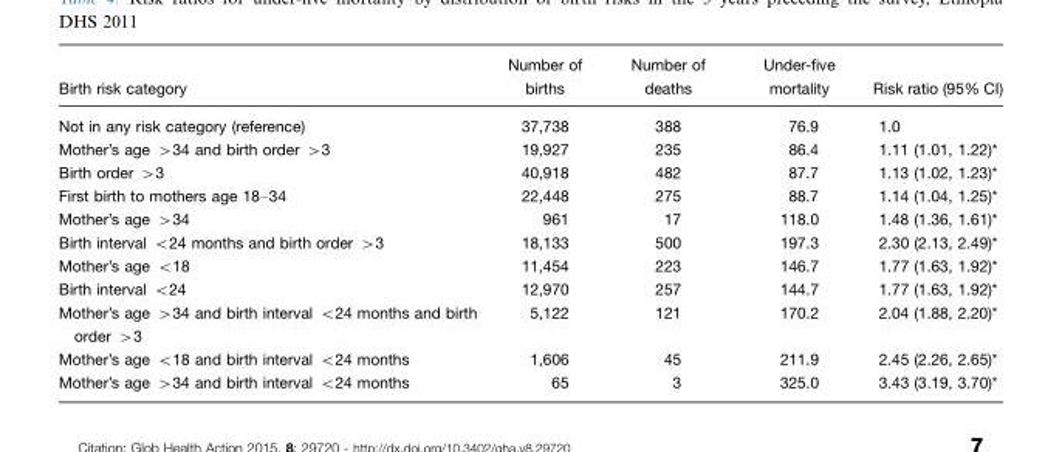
<table><thead><tr><td>Birth risk category</td><td>Number of births</td><td>Number of deaths</td><td>Under-five mortality</td><td>Risk ratio (95% CI)</td></tr></thead><tbody><tr><td>Not in any risk category (reference)</td><td>37,738</td><td>388</td><td>76.9</td><td>1.0</td></tr><tr><td>Mother’s age &gt;34 and birth order &gt;3</td><td>19,927</td><td>235</td><td>86.4</td><td>1.11 (1.01, 1.22)*</td></tr><tr><td>Birth order &gt;3</td><td>40,918</td><td>482</td><td>87.7</td><td>1.13 (1.02, 1.23)*</td></tr><tr><td>First birth to mothers age 18–34</td><td>22,448</td><td>275</td><td>88.7</td><td>1.14 (1.04, 1.25)*</td></tr><tr><td>Mother’s age &gt;34</td><td>961</td><td>17</td><td>118.0</td><td>1.48 (1.36, 1.61)*</td></tr><tr><td>Birth interval &lt;24 months and birth order &gt;3</td><td>18,133</td><td>500</td><td>197.3</td><td>2.30 (2.13, 2.49)*</td></tr><tr><td>Mother’s age &lt;18</td><td>11,454</td><td>223</td><td>146.7</td><td>1.77 (1.63, 1.92)*</td></tr><tr><td>Birth interval &lt;24</td><td>12,970</td><td>257</td><td>144.7</td><td>1.77 (1.63, 1.92)*</td></tr><tr><td>Mother’s age &gt;34 and birth interval &lt;24 months and birth order &gt;3</td><td>5,122</td><td>121</td><td>170.2</td><td>2.04 (1.88, 2.20)*</td></tr><tr><td>Mother’s age &lt;18 and birth interval &lt;24 months</td><td>1,606</td><td>45</td><td>211.9</td><td>2.45 (2.26, 2.65)*</td></tr><tr><td>Mother’s age &gt;34 and birth interval &lt;24 months</td><td>65</td><td>3</td><td>325.0</td><td>3.43 (3.19, 3.70)*</td></tr></tbody></table>